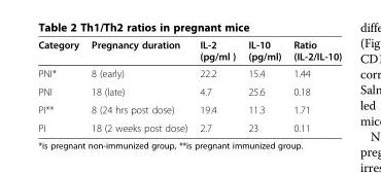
<table><thead><tr><td>Category</td><td>Pregnancy duration</td><td>IL-2 (pg/ml )</td><td>IL-10 (pg/ml)</td><td>Ratio (IL-2/IL-10)</td></tr></thead><tbody><tr><td>PNI*</td><td>8 (early)</td><td>22.2</td><td>15.4</td><td>1.44</td></tr><tr><td>PNI</td><td>18 (late)</td><td>4.7</td><td>25.6</td><td>0.18</td></tr><tr><td>PI**</td><td>8 (24 hrs post dose)</td><td>19.4</td><td>11.3</td><td>1.71</td></tr><tr><td>PI</td><td>18 (2 weeks post dose)</td><td>2.7</td><td>23</td><td>0.11</td></tr></tbody></table>